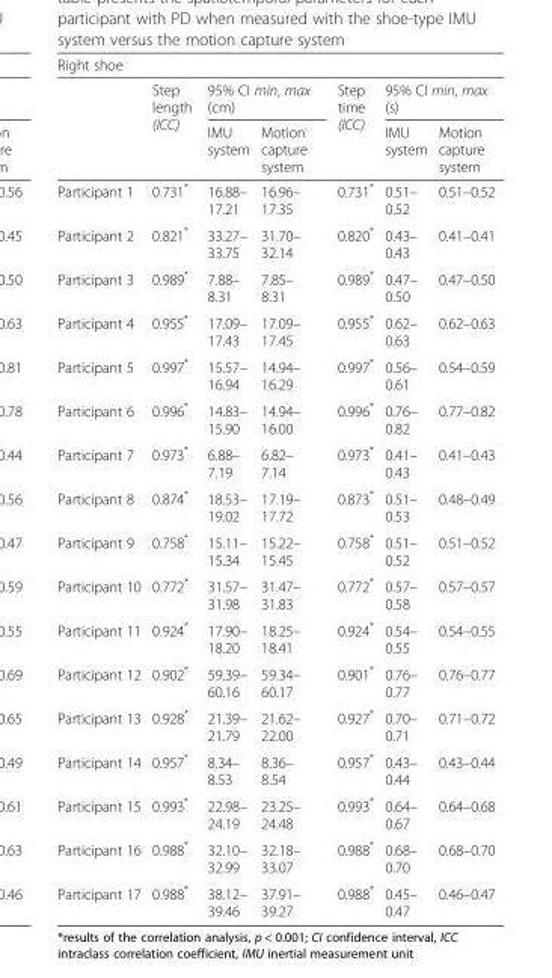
<table><thead><tr><td colspan="7">Right shoe</td></tr><tr><td rowspan="2"></td><td rowspan="2">Step length (ICC)</td><td colspan="2">95% CI min, max (cm)</td><td rowspan="2">Step time (ICC)</td><td colspan="2">95% CI min, max (s)</td></tr><tr><td>IMU system</td><td>Motion capture system</td><td>IMU system</td><td>Motion capture system</td></tr></thead><tbody><tr><td>Participant 1</td><td>0.731*</td><td>16.88– 17.21</td><td>16.96– 17.35</td><td>0.731*</td><td>0.51– 0.52</td><td>0.51–0.52</td></tr><tr><td>Participant 2</td><td>0.821*</td><td>33.27– 33.75</td><td>31.70– 32.14</td><td>0.820*</td><td>0.43– 0.43</td><td>0.41–0.41</td></tr><tr><td>Participant 3</td><td>0.989*</td><td>7.88– 8.31</td><td>7.85– 8.31</td><td>0.989*</td><td>0.47– 0.50</td><td>0.47–0.50</td></tr><tr><td>Participant 4</td><td>0.955*</td><td>17.09– 17.43</td><td>17.09– 17.45</td><td>0.955*</td><td>0.62– 0.63</td><td>0.62–0.63</td></tr><tr><td>Participant 5</td><td>0.997*</td><td>15.57– 16.94</td><td>14.94– 16.29</td><td>0.997*</td><td>0.56– 0.61</td><td>0.54–0.59</td></tr><tr><td>Participant 6</td><td>0.996*</td><td>14.83– 15.90</td><td>14.94– 16.00</td><td>0.996*</td><td>0.76– 0.82</td><td>0.77–0.82</td></tr><tr><td>Participant 7</td><td>0.973*</td><td>6.88– 7.19</td><td>6.82– 7.14</td><td>0.973*</td><td>0.41– 0.43</td><td>0.41–0.43</td></tr><tr><td>Participant 8</td><td>0.874*</td><td>18.53– 19.02</td><td>17.19– 17.72</td><td>0.873*</td><td>0.51– 0.53</td><td>0.48–0.49</td></tr><tr><td>Participant 9</td><td>0.758*</td><td>15.11– 15.34</td><td>15.22– 15.45</td><td>0.758*</td><td>0.51– 0.52</td><td>0.51–0.52</td></tr><tr><td>Participant 10</td><td>0.772*</td><td>31.57– 31.98</td><td>31.47– 31.83</td><td>0.772*</td><td>0.57– 0.58</td><td>0.57–0.57</td></tr><tr><td>Participant 11</td><td>0.924*</td><td>17.90– 18.20</td><td>18.25– 18.41</td><td>0.924*</td><td>0.54– 0.55</td><td>0.54–0.55</td></tr><tr><td>Participant 12</td><td>0.902*</td><td>59.39– 60.16</td><td>59.34– 60.17</td><td>0.901*</td><td>0.76– 0.77</td><td>0.76–0.77</td></tr><tr><td>Participant 13</td><td>0.928*</td><td>21.39– 21.79</td><td>21.62– 22.00</td><td>0.927*</td><td>0.70– 0.71</td><td>0.71–0.72</td></tr><tr><td>Participant 14</td><td>0.957*</td><td>8.34– 8.53</td><td>8.36– 8.54</td><td>0.957*</td><td>0.43– 0.44</td><td>0.43–0.44</td></tr><tr><td>Participant 15</td><td>0.993*</td><td>22.98– 24.19</td><td>23.25– 24.48</td><td>0.993*</td><td>0.64– 0.67</td><td>0.64–0.68</td></tr><tr><td>Participant 16</td><td>0.988*</td><td>32.10– 32.99</td><td>32.18– 33.07</td><td>0.988*</td><td>0.68– 0.70</td><td>0.68–0.70</td></tr><tr><td>Participant 17</td><td>0.988*</td><td>38.12– 39.46</td><td>37.91– 39.27</td><td>0.988*</td><td>0.45– 0.47</td><td>0.46–0.47</td></tr></tbody></table>